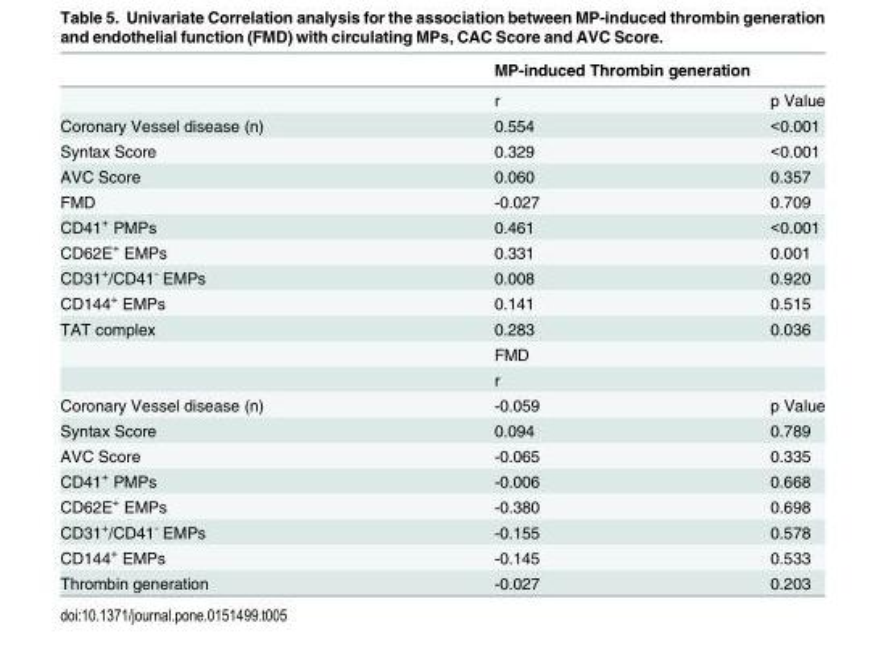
<table><thead><tr><td rowspan="2"></td><td colspan="2">MP-induced Thrombin generation</td></tr><tr><td>r</td><td>p Value</td></tr></thead><tbody><tr><td>Coronary Vessel disease (n)</td><td>0.554</td><td>&lt;0.001</td></tr><tr><td>Syntax Score</td><td>0.329</td><td>&lt;0.001</td></tr><tr><td>AVC Score</td><td>0.060</td><td>0.357</td></tr><tr><td>FMD</td><td>-0.027</td><td>0.709</td></tr><tr><td>CD41<sup>+</sup> PMPs</td><td>0.461</td><td>&lt;0.001</td></tr><tr><td>CD62E<sup>+</sup> EMPs</td><td>0.331</td><td>0.001</td></tr><tr><td>CD31<sup>+</sup>/CD41<sup>-</sup> EMPs</td><td>0.008</td><td>0.920</td></tr><tr><td>CD144<sup>+</sup> EMPs</td><td>0.141</td><td>0.515</td></tr><tr><td rowspan="3">TAT complex</td><td>0.283</td><td>0.036</td></tr><tr><td colspan="2">FMD</td></tr><tr><td colspan="2">r</td></tr><tr><td>Coronary Vessel disease (n)</td><td>-0.059</td><td>p Value</td></tr><tr><td>Syntax Score</td><td>0.094</td><td>0.789</td></tr><tr><td>AVC Score</td><td>-0.065</td><td>0.335</td></tr><tr><td>CD41<sup>+</sup> PMPs</td><td>-0.006</td><td>0.668</td></tr><tr><td>CD62E<sup>+</sup> EMPs</td><td>-0.380</td><td>0.698</td></tr><tr><td>CD31<sup>+</sup>/CD41<sup>-</sup> EMPs</td><td>-0.155</td><td>0.578</td></tr><tr><td>CD144<sup>+</sup> EMPs</td><td>-0.145</td><td>0.533</td></tr><tr><td>Thrombin generation</td><td>-0.027</td><td>0.203</td></tr></tbody></table>